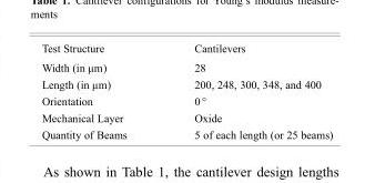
<table><tbody><tr><td>Test Structure</td><td>Cantilevers</td></tr><tr><td>Width (in μm)</td><td>28</td></tr><tr><td>Length (in μm)</td><td>200, 248, 300, 348, and 400</td></tr><tr><td>Orientation</td><td>0°</td></tr><tr><td>Mechanical Layer</td><td>Oxide</td></tr><tr><td>Quantity of Beams</td><td>5 of each length (or 25 beams)</td></tr></tbody></table>